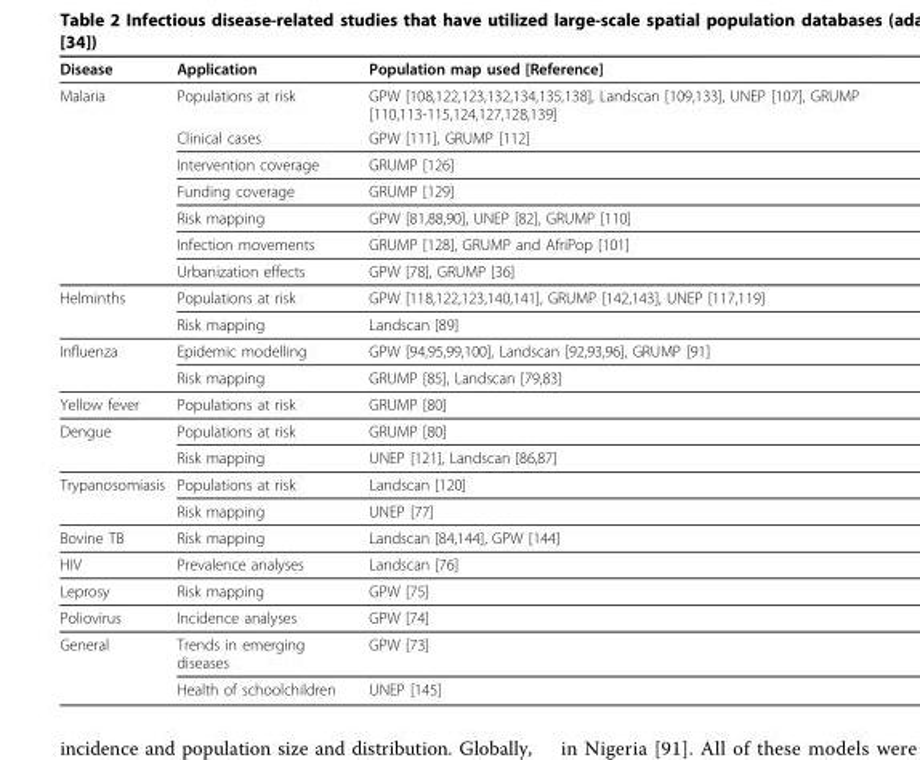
<table><thead><tr><td>Disease</td><td>Application</td><td>Population map used [Reference]</td></tr></thead><tbody><tr><td rowspan="7">Malaria</td><td>Populations at risk</td><td>GPW [108,122,123,132,134,135,138], Landscan [109,133], UNEP [107], GRUMP [110,113-115,124,127,128,139]</td></tr><tr><td>Clinical cases</td><td>GPW [111], GRUMP [112]</td></tr><tr><td>Intervention coverage</td><td>GRUMP [126]</td></tr><tr><td>Funding coverage</td><td>GRUMP [129]</td></tr><tr><td>Risk mapping</td><td>GPW [81,88,90], UNEP [82], GRUMP [110]</td></tr><tr><td>Infection movements</td><td>GRUMP [128], GRUMP and AfriPop [101]</td></tr><tr><td>Urbanization effects</td><td>GPW [78], GRUMP [36]</td></tr><tr><td rowspan="2">Helminths</td><td>Populations at risk</td><td>GPW [118,122,123,140,141], GRUMP [142,143], UNEP [117,119]</td></tr><tr><td>Risk mapping</td><td>Landscan [89]</td></tr><tr><td rowspan="2">Influenza</td><td>Epidemic modelling</td><td>GPW [94,95,99,100], Landscan [92,93,96], GRUMP [91]</td></tr><tr><td>Risk mapping</td><td>GRUMP [85], Landscan [79,83]</td></tr><tr><td>Yellow fever</td><td>Populations at risk</td><td>GRUMP [80]</td></tr><tr><td rowspan="2">Dengue</td><td>Populations at risk</td><td>GRUMP [80]</td></tr><tr><td>Risk mapping</td><td>UNEP [121], Landscan [86,87]</td></tr><tr><td rowspan="2">Trypanosomiasis</td><td>Populations at risk</td><td>Landscan [120]</td></tr><tr><td>Risk mapping</td><td>UNEP [77]</td></tr><tr><td>Bovine TB</td><td>Risk mapping</td><td>Landscan [84,144], GPW [144]</td></tr><tr><td>HIV</td><td>Prevalence analyses</td><td>Landscan [76]</td></tr><tr><td>Leprosy</td><td>Risk mapping</td><td>GPW [75]</td></tr><tr><td>Poliovirus</td><td>Incidence analyses</td><td>GPW [74]</td></tr><tr><td rowspan="2">General</td><td>Trends in emerging diseases</td><td>GPW [73]</td></tr><tr><td>Health of schoolchildren</td><td>UNEP [145]</td></tr></tbody></table>